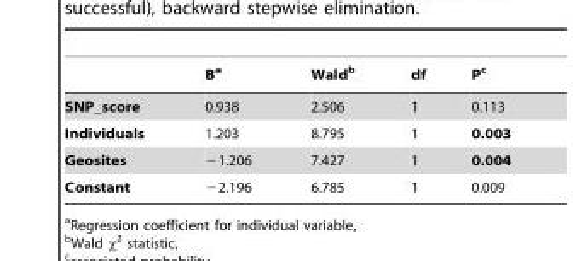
<table><thead><tr><td></td><td>B<sup>a</sup></td><td>Wald<sup>b</sup></td><td>df</td><td>P<sup>c</sup></td></tr></thead><tbody><tr><td>SNP_score</td><td>0.938</td><td>2.506</td><td>1</td><td>0.113</td></tr><tr><td>Individuals</td><td>1.203</td><td>8.795</td><td>1</td><td>0.003</td></tr><tr><td>Geosites</td><td>−1.206</td><td>7.427</td><td>1</td><td>0.004</td></tr><tr><td>Constant</td><td>−2.196</td><td>6.785</td><td>1</td><td>0.009</td></tr></tbody></table>